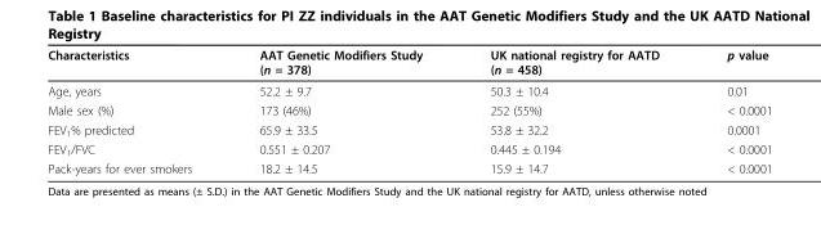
<table><thead><tr><td>Characteristics</td><td>AAT Genetic Modifiers Study (n = 378)</td><td>UK national registry for AATD (n = 458)</td><td>p value</td></tr></thead><tbody><tr><td>Age, years</td><td>52.2 ± 9.7</td><td>50.3 ± 10.4</td><td>0.01</td></tr><tr><td>Male sex (%)</td><td>173 (46%)</td><td>252 (55%)</td><td>&lt; 0.0001</td></tr><tr><td>FEV<sub>1</sub>% predicted</td><td>65.9 ± 33.5</td><td>53.8 ± 32.2</td><td>0.0001</td></tr><tr><td>FEV<sub>1</sub>/FVC</td><td>0.551 ± 0.207</td><td>0.445 ± 0.194</td><td>&lt; 0.0001</td></tr><tr><td>Pack-years for ever smokers</td><td>18.2 ± 14.5</td><td>15.9 ± 14.7</td><td>&lt; 0.0001</td></tr></tbody></table>